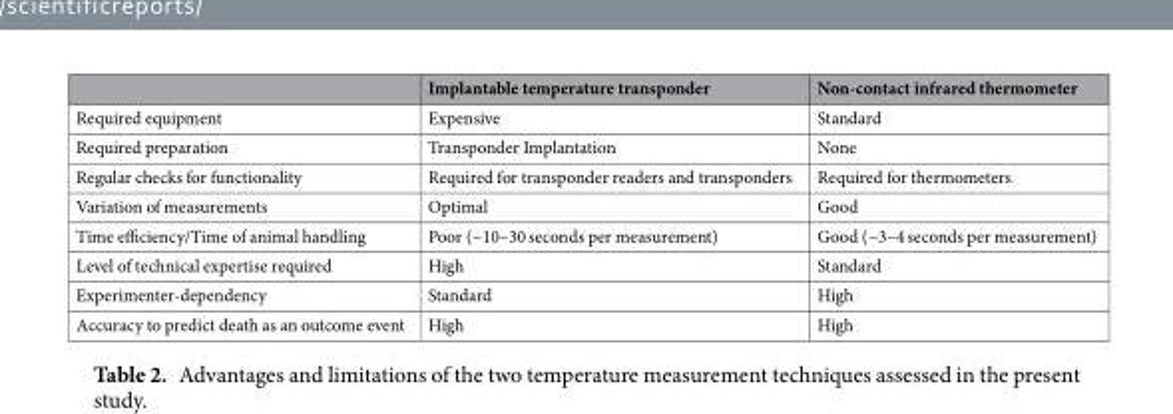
<table><thead><tr><td></td><td>Implantable temperature transponder</td><td>Non-contact infrared thermometer</td></tr></thead><tbody><tr><td>Required equipment</td><td>Expensive</td><td>Standard</td></tr><tr><td>Required preparation</td><td>Transponder Implantation</td><td>None</td></tr><tr><td>Regular checks for functionality</td><td>Required for transponder readers and transponders</td><td>Required for thermometers</td></tr><tr><td>Variation of measurements</td><td>Optimal</td><td>Good</td></tr><tr><td>Time efficiency/Time of animal handling</td><td>Poor (~10–30 seconds per measurement)</td><td>Good (~3–4 seconds per measurement)</td></tr><tr><td>Level of technical expertise required</td><td>High</td><td>Standard</td></tr><tr><td>Experimenter-dependency</td><td>Standard</td><td>High</td></tr><tr><td>Accuracy to predict death as an outcome event</td><td>High</td><td>High</td></tr></tbody></table>